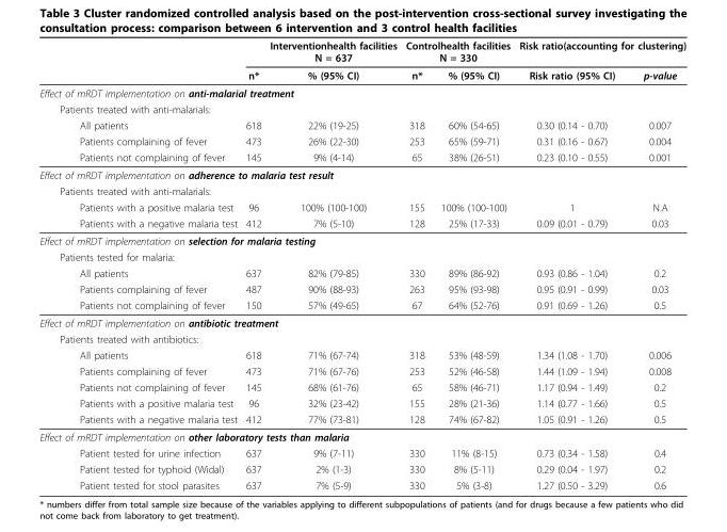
<table><thead><tr><td rowspan="2"></td><td rowspan="2">n*</td><td rowspan="2">Interventionhealth facilities N = 637 % (95% CI)</td><td colspan="2">Controlhealth facilities N = 330</td><td colspan="2">Risk ratio(accounting for clustering)</td></tr><tr><td>n*</td><td>% (95% CI)</td><td>Risk ratio (95% CI)</td><td>p-value</td></tr></thead><tbody><tr><td colspan="7">Effect of mRDT implementation on anti-malarial treatment</td></tr><tr><td colspan="7">Patients treated with anti-malarials:</td></tr><tr><td>All patients</td><td>618</td><td>22% (19-25)</td><td>318</td><td>60% (54-65)</td><td>0.30 (0.14 - 0.70)</td><td>0.007</td></tr><tr><td>Patients complaining of fever</td><td>473</td><td>26% (22-30)</td><td>253</td><td>65% (59-71)</td><td>0.31 (0.16 - 0.67)</td><td>0.004</td></tr><tr><td>Patients not complaining of fever</td><td>145</td><td>9% (4-14)</td><td>65</td><td>38% (26-51)</td><td>0.23 (0.10 - 0.55)</td><td>0.001</td></tr><tr><td colspan="7">Effect of mRDT implementation on adherence to malaria test result</td></tr><tr><td colspan="7">Patients treated with anti-malarials:</td></tr><tr><td>Patients with a positive malaria test</td><td>96</td><td>100% (100-100)</td><td>155</td><td>100% (100-100)</td><td>1</td><td>N.A</td></tr><tr><td>Patients with a negative malaria test</td><td>412</td><td>7% (5-10)</td><td>128</td><td>25% (17-33)</td><td>0.09 (0.01 - 0.79)</td><td>0.03</td></tr><tr><td colspan="7">Effect of mRDT implementation on selection for malaria testing</td></tr><tr><td colspan="7">Patients tested for malaria:</td></tr><tr><td>All patients</td><td>637</td><td>82% (79-85)</td><td>330</td><td>89% (86-92)</td><td>0.93 (0.86 - 1.04)</td><td>0.2</td></tr><tr><td>Patients complaining of fever</td><td>487</td><td>90% (88-93)</td><td>263</td><td>95% (93-98)</td><td>0.95 (0.91 - 0.99)</td><td>0.03</td></tr><tr><td>Patients not complaining of fever</td><td>150</td><td>57% (49-65)</td><td>67</td><td>64% (52-76)</td><td>0.91 (0.69 - 1.26)</td><td>0.5</td></tr><tr><td colspan="7">Effect of mRDT implementation on antibiotic treatment</td></tr><tr><td colspan="7">Patients treated with antibiotics:</td></tr><tr><td>All patients</td><td>618</td><td>71% (67-74)</td><td>318</td><td>53% (48-59)</td><td>1.34 (1.08 - 1.70)</td><td>0.006</td></tr><tr><td>Patients complaining of fever</td><td>473</td><td>71% (67-76)</td><td>253</td><td>52% (46-58)</td><td>1.44 (1.09 - 1.94)</td><td>0.008</td></tr><tr><td>Patients not complaining of fever</td><td>145</td><td>68% (61-76)</td><td>65</td><td>58% (46-71)</td><td>1.17 (0.94 - 1.49)</td><td>0.2</td></tr><tr><td>Patients with a positive malaria test</td><td>96</td><td>32% (23-42)</td><td>155</td><td>28% (21-36)</td><td>1.14 (0.77 - 1.66)</td><td>0.5</td></tr><tr><td>Patients with a negative malaria test</td><td>412</td><td>77% (73-81)</td><td>128</td><td>74% (67-82)</td><td>1.05 (0.91 - 1.26)</td><td>0.5</td></tr><tr><td colspan="7">Effect of mRDT implementation on other laboratory tests than malaria</td></tr><tr><td>Patient tested for urine infection</td><td>637</td><td>9% (7-11)</td><td>330</td><td>11% (8-15)</td><td>0.73 (0.34 - 1.58)</td><td>0.4</td></tr><tr><td>Patient tested for typhoid (Widal)</td><td>637</td><td>2% (1-3)</td><td>330</td><td>8% (5-11)</td><td>0.29 (0.04 - 1.97)</td><td>0.2</td></tr><tr><td>Patient tested for stool parasites</td><td>637</td><td>7% (5-9)</td><td>330</td><td>5% (3-8)</td><td>1.27 (0.50 - 3.29)</td><td>0.6</td></tr></tbody></table>